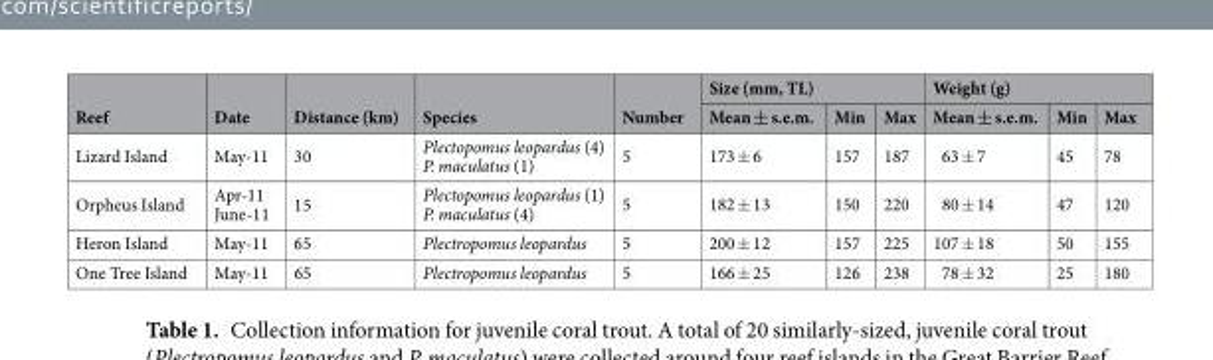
<table><thead><tr><td rowspan="2">Reef</td><td rowspan="2">Date</td><td rowspan="2">Distance (km)</td><td rowspan="2">Species</td><td rowspan="2">Number</td><td colspan="3">Size (mm, TL)</td><td colspan="3">Weight (g)</td></tr><tr><td>Mean ± s.e.m.</td><td>Min</td><td>Max</td><td>Mean ± s.e.m.</td><td>Min</td><td>Max</td></tr></thead><tbody><tr><td>Lizard Island</td><td>May-11</td><td>30</td><td>Plectopomus leopardus (4) P. maculatus (1)</td><td>5</td><td>173 ± 6</td><td>157</td><td>187</td><td>63 ± 7</td><td>45</td><td>78</td></tr><tr><td>Orpheus Island</td><td>Apr-11 June-11</td><td>15</td><td>Plectopomus leopardus (1) P. maculatus (4)</td><td>5</td><td>182 ± 13</td><td>150</td><td>220</td><td>80 ± 14</td><td>47</td><td>120</td></tr><tr><td>Heron Island</td><td>May-11</td><td>65</td><td>Plectropomus leopardus</td><td>5</td><td>200 ± 12</td><td>157</td><td>225</td><td>107 ± 18</td><td>50</td><td>155</td></tr><tr><td>One Tree Island</td><td>May-11</td><td>65</td><td>Plectropomus leopardus</td><td>5</td><td>166 ± 25</td><td>126</td><td>238</td><td>78 ± 32</td><td>25</td><td>180</td></tr></tbody></table>